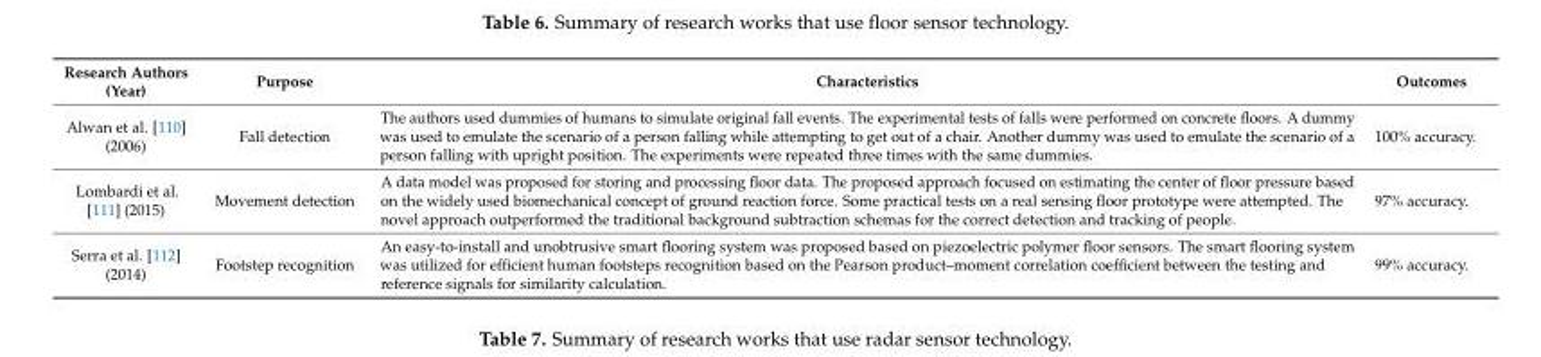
<table><thead><tr><td>Research Authors (Year)</td><td>Purpose</td><td>Characteristics</td><td>Outcomes</td></tr></thead><tbody><tr><td>Alwan et al. [110] (2006)</td><td>Fall detection</td><td>The authors used dummies of humans to simulate original fall events. The experimental tests of falls were performed on concrete floors. A dummy was used to emulate the scenario of a person falling while attempting to get out of a chair. Another dummy was used to emulate the scenario of a person falling with upright position. The experiments were repeated three times with the same dummies.</td><td>100% accuracy.</td></tr><tr><td>Lombardi et al. [111] (2015)</td><td>Movement detection</td><td>A data model was proposed for storing and processing floor data. The proposed approach focused on estimating the center of floor pressure based on the widely used biomechanical concept of ground reaction force. Some practical tests on a real sensing floor prototype were attempted. The novel approach outperformed the traditional background subtraction schemas for the correct detection and tracking of people.</td><td>97% accuracy.</td></tr><tr><td>Serra et al. [112] (2014)</td><td>Footstep recognition</td><td>An easy-to-install and unobtrusive smart flooring system was proposed based on piezoelectric polymer floor sensors. The smart flooring system was utilized for efficient human footsteps recognition based on the Pearson product–moment correlation coefficient between the testing and reference signals for similarity calculation.</td><td>99% accuracy.</td></tr></tbody></table>